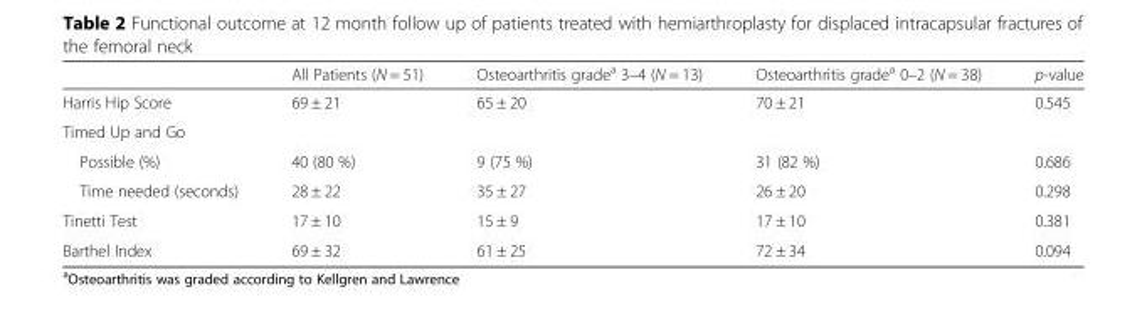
<table><thead><tr><td></td><td>All Patients (N = 51)</td><td>Osteoarthritis grade<sup>a</sup> 3–4 (N = 13)</td><td>Osteoarthritis grade<sup>a</sup> 0–2 (N = 38)</td><td>p-value</td></tr></thead><tbody><tr><td>Harris Hip Score</td><td>69 ± 21</td><td>65 ± 20</td><td>70 ± 21</td><td>0.545</td></tr><tr><td colspan="5">Timed Up and Go</td></tr><tr><td>Possible (%)</td><td>40 (80 %)</td><td>9 (75 %)</td><td>31 (82 %)</td><td>0.686</td></tr><tr><td>Time needed (seconds)</td><td>28 ± 22</td><td>35 ± 27</td><td>26 ± 20</td><td>0.298</td></tr><tr><td>Tinetti Test</td><td>17 ± 10</td><td>15 ± 9</td><td>17 ± 10</td><td>0.381</td></tr><tr><td>Barthel Index</td><td>69 ± 32</td><td>61 ± 25</td><td>72 ± 34</td><td>0.094</td></tr></tbody></table>